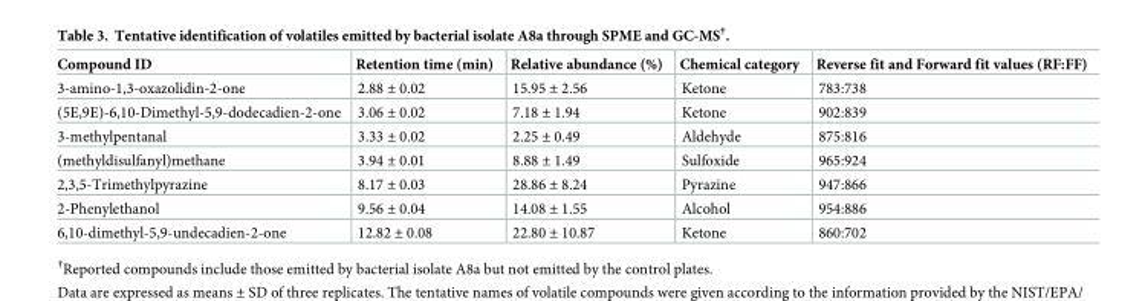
<table><thead><tr><td>Compound ID</td><td>Retention time (min)</td><td>Relative abundance (%)</td><td>Chemical category</td><td>Reverse fit and Forward fit values (RF:FF)</td></tr></thead><tbody><tr><td>3-amino-1,3-oxazolidin-2-one</td><td>2.88 ± 0.02</td><td>15.95 ± 2.56</td><td>Ketone</td><td>783:738</td></tr><tr><td>(5E,9E)-6,10-Dimethyl-5,9-dodecadien-2-one</td><td>3.06 ± 0.02</td><td>7.18 ± 1.94</td><td>Ketone</td><td>902:839</td></tr><tr><td>3-methylpentanal</td><td>3.33 ± 0.02</td><td>2.25 ± 0.49</td><td>Aldehyde</td><td>875:816</td></tr><tr><td>(methyldisulfanyl)methane</td><td>3.94 ± 0.01</td><td>8.88 ± 1.49</td><td>Sulfoxide</td><td>965:924</td></tr><tr><td>2,3,5-Trimethylpyrazine</td><td>8.17 ± 0.03</td><td>28.86 ± 8.24</td><td>Pyrazine</td><td>947:866</td></tr><tr><td>2-Phenylethanol</td><td>9.56 ± 0.04</td><td>14.08 ± 1.55</td><td>Alcohol</td><td>954:886</td></tr><tr><td>6,10-dimethyl-5,9-undecadien-2-one</td><td>12.82 ± 0.08</td><td>22.80 ± 10.87</td><td>Ketone</td><td>860:702</td></tr></tbody></table>